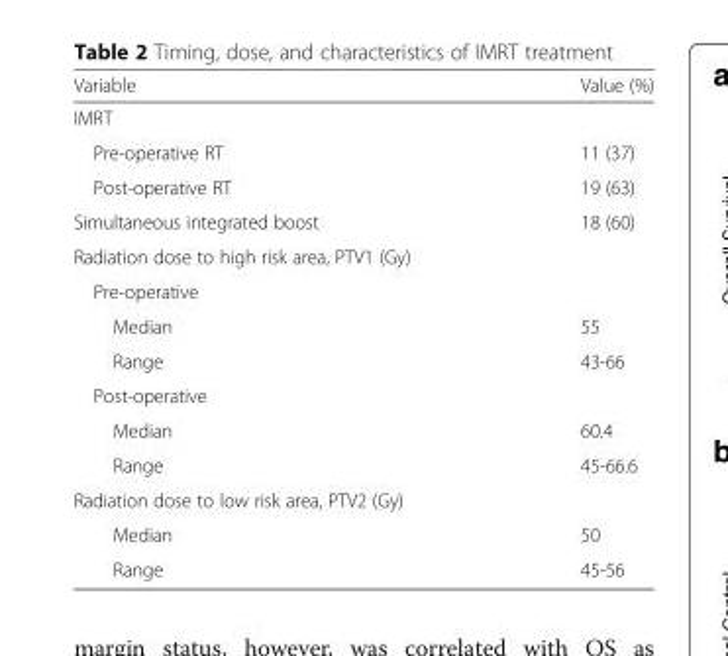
<table><thead><tr><td>Variable</td><td>Value (%)</td></tr></thead><tbody><tr><td colspan="2">IMRT</td></tr><tr><td>Pre-operative RT</td><td>11 (37)</td></tr><tr><td>Post-operative RT</td><td>19 (63)</td></tr><tr><td>Simultaneous integrated boost</td><td>18 (60)</td></tr><tr><td colspan="2">Radiation dose to high risk area, PTV1 (Gy)</td></tr><tr><td colspan="2">Pre-operative</td></tr><tr><td>Median</td><td>55</td></tr><tr><td>Range</td><td>43-66</td></tr><tr><td colspan="2">Post-operative</td></tr><tr><td>Median</td><td>60.4</td></tr><tr><td>Range</td><td>45-66.6</td></tr><tr><td colspan="2">Radiation dose to low risk area, PTV2 (Gy)</td></tr><tr><td>Median</td><td>50</td></tr><tr><td>Range</td><td>45-56</td></tr></tbody></table>